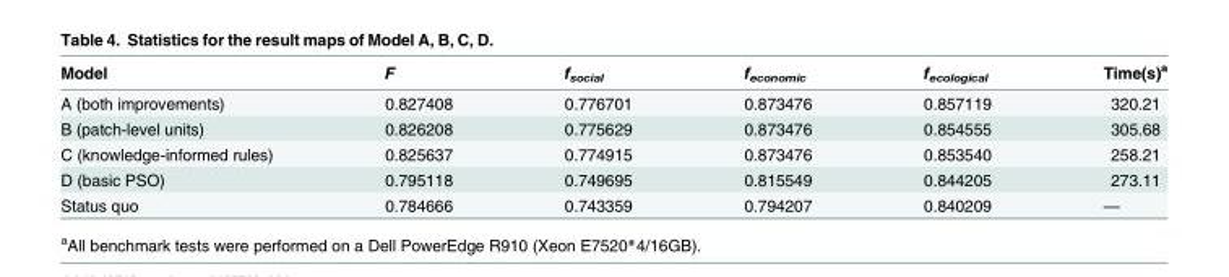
<table><thead><tr><td>Model</td><td>F</td><td>f<sub>social</sub></td><td>f<sub>economic</sub></td><td>f<sub>ecological</sub></td><td>Time(s)<sup>a</sup></td></tr></thead><tbody><tr><td>A (both improvements)</td><td>0.827408</td><td>0.776701</td><td>0.873476</td><td>0.857119</td><td>320.21</td></tr><tr><td>B (patch-level units)</td><td>0.826208</td><td>0.775629</td><td>0.873476</td><td>0.854555</td><td>305.68</td></tr><tr><td>C (knowledge-informed rules)</td><td>0.825637</td><td>0.774915</td><td>0.873476</td><td>0.853540</td><td>258.21</td></tr><tr><td>D (basic PSO)</td><td>0.795118</td><td>0.749695</td><td>0.815549</td><td>0.844205</td><td>273.11</td></tr><tr><td>Status quo</td><td>0.784666</td><td>0.743359</td><td>0.794207</td><td>0.840209</td><td>—</td></tr></tbody></table>